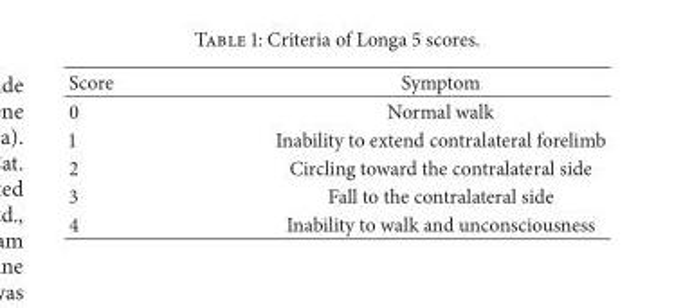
<table><thead><tr><td>Score</td><td>Symptom</td></tr></thead><tbody><tr><td>0</td><td>Normal walk</td></tr><tr><td>1</td><td>Inability to extend contralateral forelimb</td></tr><tr><td>2</td><td>Circling toward the contralateral side</td></tr><tr><td>3</td><td>Fall to the contralateral side</td></tr><tr><td>4</td><td>Inability to walk and unconsciousness</td></tr></tbody></table>